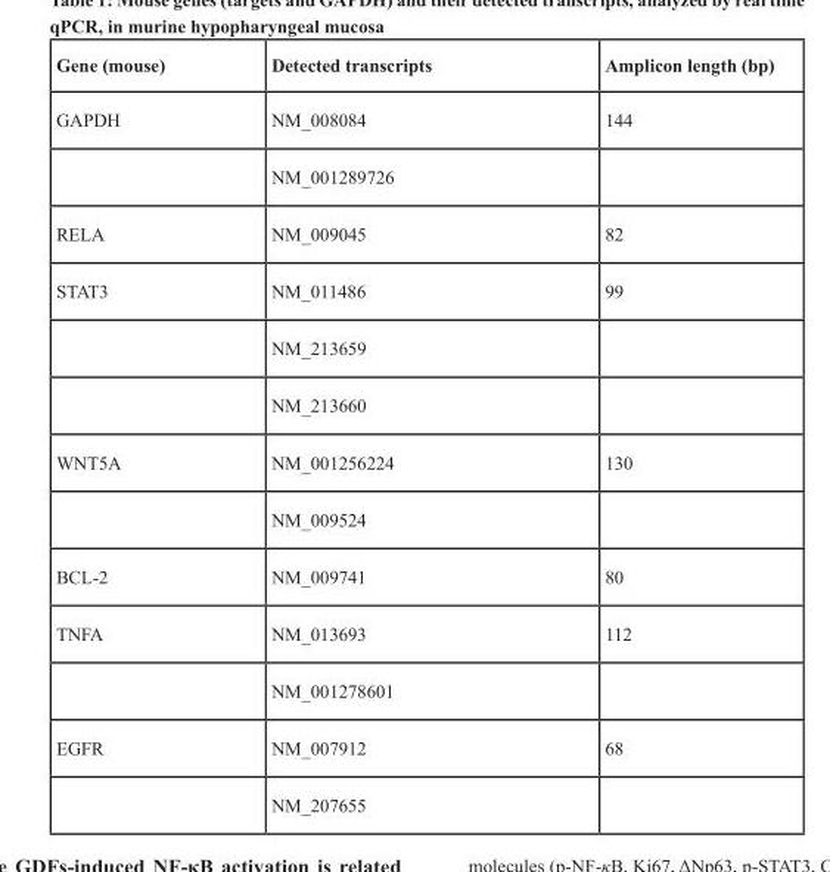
<table><thead><tr><td>Gene (mouse)</td><td>Detected transcripts</td><td>Amplicon length (bp)</td></tr></thead><tbody><tr><td rowspan="2">GAPDH</td><td>NM_008084</td><td>144</td></tr><tr><td>NM_001289726</td><td></td></tr><tr><td>RELA</td><td>NM_009045</td><td>82</td></tr><tr><td rowspan="3">STAT3</td><td>NM_011486</td><td>99</td></tr><tr><td>NM_213659</td><td></td></tr><tr><td>NM_213660</td><td></td></tr><tr><td rowspan="2">WNT5A</td><td>NM_001256224</td><td>130</td></tr><tr><td>NM_009524</td><td></td></tr><tr><td>BCL-2</td><td>NM_009741</td><td>80</td></tr><tr><td rowspan="2">TNFA</td><td>NM_013693</td><td>112</td></tr><tr><td>NM_001278601</td><td></td></tr><tr><td rowspan="2">EGFR</td><td>NM_007912</td><td>68</td></tr><tr><td>NM_207655</td><td></td></tr></tbody></table>